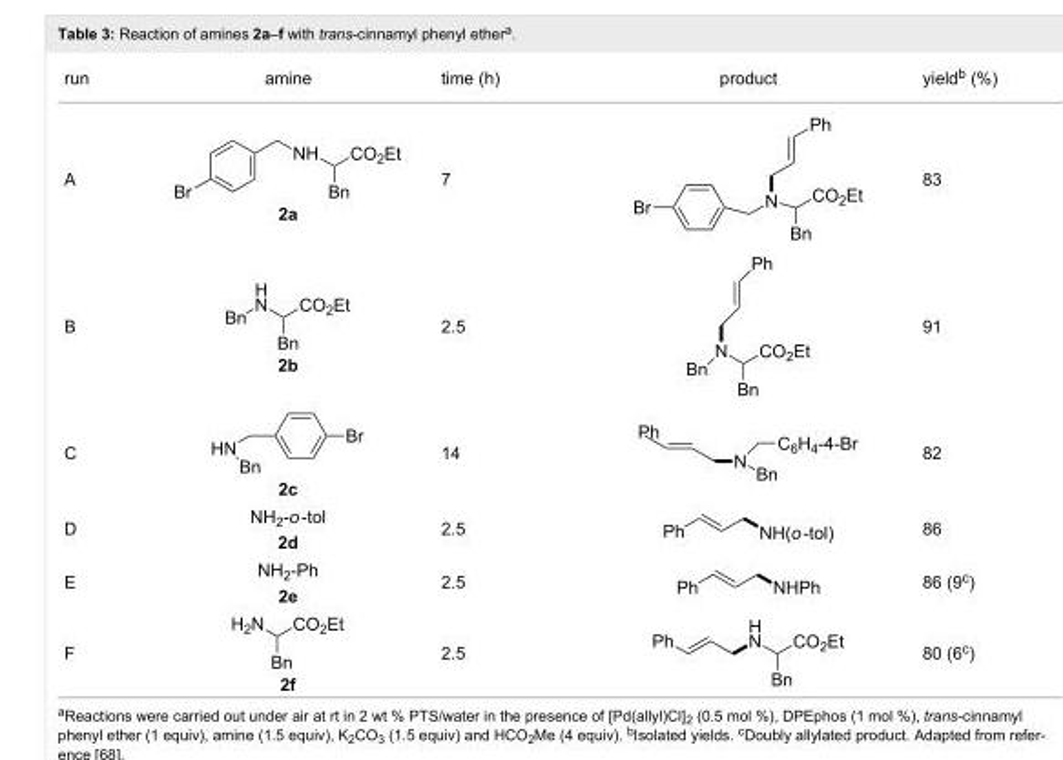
<table><tbody><tr><td>run</td><td>amine</td><td>time (h)</td><td>product</td><td>yield<sup>b</sup> (%)</td></tr><tr><td>A</td><td>2a</td><td>7</td><td></td><td>83</td></tr><tr><td>B</td><td>2b</td><td>2.5</td><td></td><td>91</td></tr><tr><td>C</td><td>2c</td><td>14</td><td></td><td>82</td></tr><tr><td>D</td><td>2d</td><td>2.5</td><td></td><td>86</td></tr><tr><td>E</td><td>2e</td><td>2.5</td><td></td><td>86 (9<sup>c</sup>)</td></tr><tr><td>F</td><td>2f</td><td>2.5</td><td></td><td>80 (6<sup>c</sup>)</td></tr></tbody></table>